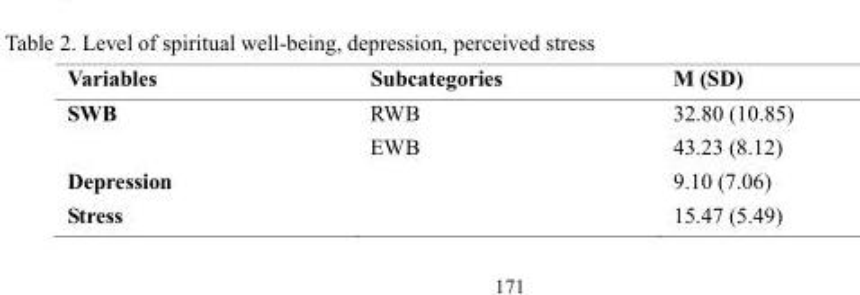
<table><thead><tr><td>Variables</td><td>Subcategories</td><td>M (SD)</td></tr></thead><tbody><tr><td rowspan="2">SWB</td><td>RWB</td><td>32.80 (10.85)</td></tr><tr><td>EWB</td><td>43.23 (8.12)</td></tr><tr><td>Depression</td><td></td><td>9.10 (7.06)</td></tr><tr><td>Stress</td><td></td><td>15.47 (5.49)</td></tr></tbody></table>